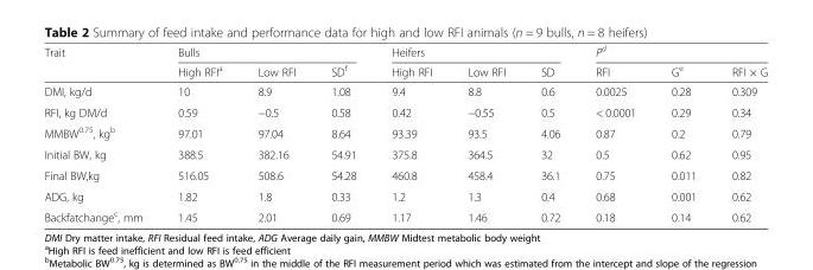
<table><thead><tr><td rowspan="2">Trait</td><td colspan="3">Bulls</td><td colspan="3">Heifers</td><td colspan="3">P<sup>d</sup></td></tr><tr><td>High RFI<sup>a</sup></td><td>Low RFI</td><td>SD<sup>f</sup></td><td>High RFI</td><td>Low RFI</td><td>SD</td><td>RFI</td><td>G<sup>e</sup></td><td>RFI × G</td></tr></thead><tbody><tr><td>DMI, kg/d</td><td>10</td><td>8.9</td><td>1.08</td><td>9.4</td><td>8.8</td><td>0.6</td><td>0.0025</td><td>0.28</td><td>0.309</td></tr><tr><td>RFI, kg DM/d</td><td>0.59</td><td>−0.5</td><td>0.58</td><td>0.42</td><td>−0.55</td><td>0.5</td><td>&lt; 0.0001</td><td>0.29</td><td>0.34</td></tr><tr><td>MMBW<sup>0.75</sup>, kg<sup>b</sup></td><td>97.01</td><td>97.04</td><td>8.64</td><td>93.39</td><td>93.5</td><td>4.06</td><td>0.87</td><td>0.2</td><td>0.79</td></tr><tr><td>Initial BW, kg</td><td>388.5</td><td>382.16</td><td>54.91</td><td>375.8</td><td>364.5</td><td>32</td><td>0.5</td><td>0.62</td><td>0.95</td></tr><tr><td>Final BW,kg</td><td>516.05</td><td>508.6</td><td>54.28</td><td>460.8</td><td>458.4</td><td>36.1</td><td>0.75</td><td>0.011</td><td>0.82</td></tr><tr><td>ADG, kg</td><td>1.82</td><td>1.8</td><td>0.33</td><td>1.2</td><td>1.3</td><td>0.4</td><td>0.68</td><td>0.001</td><td>0.62</td></tr><tr><td>Backfatchange<sup>c</sup>, mm</td><td>1.45</td><td>2.01</td><td>0.69</td><td>1.17</td><td>1.46</td><td>0.72</td><td>0.18</td><td>0.14</td><td>0.62</td></tr></tbody></table>